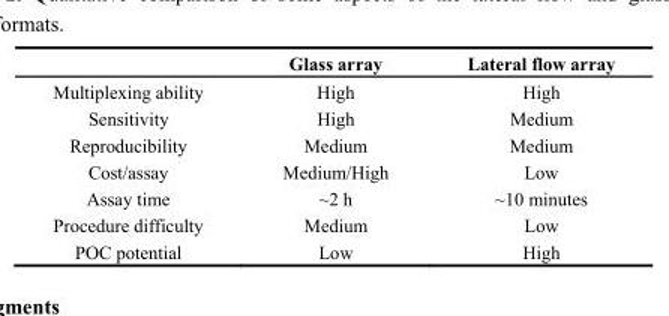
<table><thead><tr><td></td><td>Glass array</td><td>Lateral flow array</td></tr></thead><tbody><tr><td>Multiplexing ability</td><td>High</td><td>High</td></tr><tr><td>Sensitivity</td><td>High</td><td>Medium</td></tr><tr><td>Reproducibility</td><td>Medium</td><td>Medium</td></tr><tr><td>Cost/assay</td><td>Medium/High</td><td>Low</td></tr><tr><td>Assay time</td><td>~2 h</td><td>~10 minutes</td></tr><tr><td>Procedure difficulty</td><td>Medium</td><td>Low</td></tr><tr><td>POC potential</td><td>Low</td><td>High</td></tr></tbody></table>